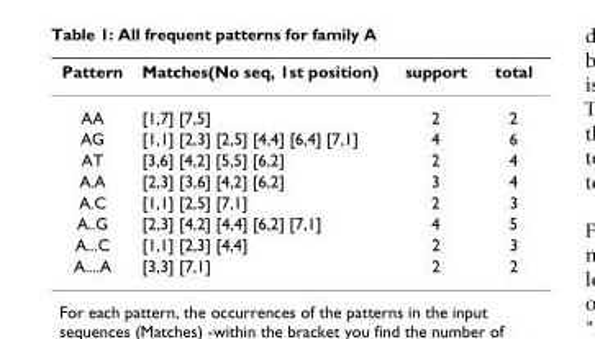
<table><thead><tr><td>Pattern</td><td>Matches(No seq, 1st position)</td><td>support</td><td>total</td></tr></thead><tbody><tr><td>AA</td><td>[1,7] [7,5]</td><td>2</td><td>2</td></tr><tr><td>AG</td><td>[1,1] [2,3] [2,5] [4,4] [6,4] [7,1]</td><td>4</td><td>6</td></tr><tr><td>AT</td><td>[3,6] [4,2] [5,5] [6,2]</td><td>2</td><td>4</td></tr><tr><td>A.A</td><td>[2,3] [3,6] [4,2] [6,2]</td><td>3</td><td>4</td></tr><tr><td>A.C</td><td>[1,1] [2,5] [7,1]</td><td>2</td><td>3</td></tr><tr><td>A..G</td><td>[2,3] [4,2] [4,4] [6,2] [7,1]</td><td>4</td><td>5</td></tr><tr><td>A...C</td><td>[1,1] [2,3] [4,4]</td><td>2</td><td>3</td></tr><tr><td>A....A</td><td>[3,3] [7,1]</td><td>2</td><td>2</td></tr></tbody></table>